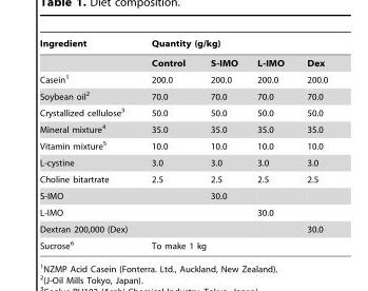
<table><thead><tr><td rowspan="2">Ingredient</td><td colspan="4">Quantity (g/kg)</td></tr><tr><td>Control</td><td>S-IMO</td><td>L-IMO</td><td>Dex</td></tr></thead><tbody><tr><td>Casein<sup>1</sup></td><td>200.0</td><td>200.0</td><td>200.0</td><td>200.0</td></tr><tr><td>Soybean oil<sup>2</sup></td><td>70.0</td><td>70.0</td><td>70.0</td><td>70.0</td></tr><tr><td>Crystallized cellulose<sup>3</sup></td><td>50.0</td><td>50.0</td><td>50.0</td><td>50.0</td></tr><tr><td>Mineral mixture<sup>4</sup></td><td>35.0</td><td>35.0</td><td>35.0</td><td>35.0</td></tr><tr><td>Vitamin mixture<sup>5</sup></td><td>10.0</td><td>10.0</td><td>10.0</td><td>10.0</td></tr><tr><td>L-cystine</td><td>3.0</td><td>3.0</td><td>3.0</td><td>3.0</td></tr><tr><td>Choline bitartrate</td><td>2.5</td><td>2.5</td><td>2.5</td><td>2.5</td></tr><tr><td>S-IMO</td><td></td><td>30.0</td><td></td><td></td></tr><tr><td>L-IMO</td><td></td><td></td><td>30.0</td><td></td></tr><tr><td>Dextran 200,000 (Dex)</td><td></td><td></td><td></td><td>30.0</td></tr><tr><td>Sucrose<sup>6</sup></td><td colspan="4">To make 1 kg</td></tr></tbody></table>